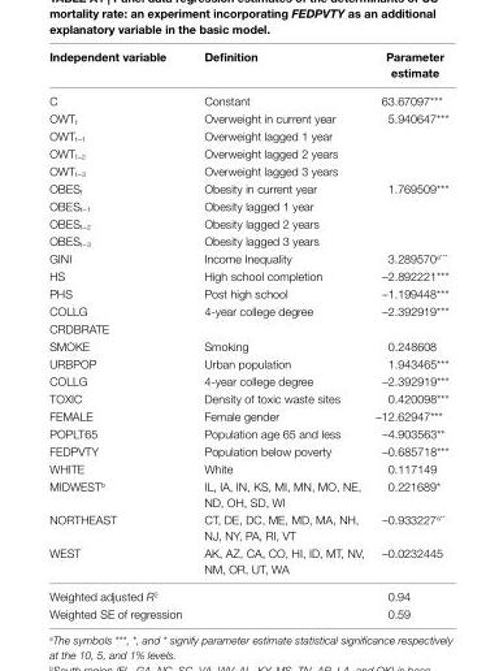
<table><thead><tr><td>independent variable</td><td>Definition</td><td>Parameter estimate</td></tr></thead><tbody><tr><td>C</td><td>Constant</td><td>63.67097***</td></tr><tr><td>OWT<sub>t</sub></td><td>Overweight in current year</td><td>5.940647***</td></tr><tr><td>OWT<sub>t−1</sub></td><td>Overweight lagged 1 year</td><td></td></tr><tr><td>OWT<sub>t−2</sub></td><td>Overweight lagged 2 years</td><td></td></tr><tr><td>OWT<sub>t−3</sub></td><td>Overweight lagged 3 years</td><td></td></tr><tr><td>OBES<sub>t</sub></td><td>Obesity in current year</td><td>1.769509***</td></tr><tr><td>OBES<sub>t−1</sub></td><td>Obesity lagged 1 year</td><td></td></tr><tr><td>OBES<sub>t−2</sub></td><td>Obesity lagged 2 years</td><td></td></tr><tr><td>OBES<sub>t−3</sub></td><td>Obesity lagged 3 years</td><td></td></tr><tr><td>GINI</td><td>Income Inequality</td><td>3.289570<sup>a</sup>***</td></tr><tr><td>HS</td><td>High school completion</td><td>–2.892221***</td></tr><tr><td>PHS</td><td>Post high school</td><td>–1.199448***</td></tr><tr><td>COLLG</td><td>4-year college degree</td><td>–2.392919***</td></tr><tr><td colspan="3">CRDBRATE</td></tr><tr><td>SMOKE</td><td>Smoking</td><td>0.248608</td></tr><tr><td>URBPOP</td><td>Urban population</td><td>1.943465***</td></tr><tr><td>COLLG</td><td>4-year college degree</td><td>–2.392919***</td></tr><tr><td>TOXIC</td><td>Density of toxic waste sites</td><td>0.420098***</td></tr><tr><td>FEMALE</td><td>Female gender</td><td>–12.62947***</td></tr><tr><td>POPLT65</td><td>Population age 65 and less</td><td>–4.903563**</td></tr><tr><td>FEDPVTY</td><td>Population below poverty</td><td>–0.685718***</td></tr><tr><td>WHITE</td><td>White</td><td>0.117149</td></tr><tr><td>MIDWEST<sup>b</sup></td><td>IL, IA, IN, KS, MI, MN, MO, NE, ND, OH, SD, WI</td><td>0.221689*</td></tr><tr><td>NORTHEAST</td><td>CT, DE, DC, ME, MD, MA, NH, NJ, NY, PA, RI, VT</td><td>–0.933227<sup>a</sup>**</td></tr><tr><td>WEST</td><td>AK, AZ, CA, CO, HI, ID, MT, NV, NM, OR, UT, WA</td><td>–0.0232445</td></tr><tr><td>Weighted adjusted R<sup>2</sup></td><td></td><td>0.94</td></tr><tr><td>Weighted SE of regression</td><td></td><td>0.59</td></tr></tbody></table>